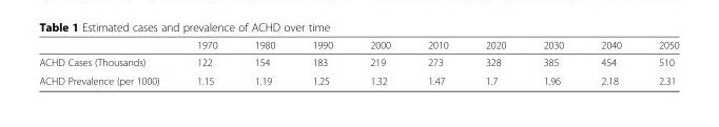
<table><thead><tr><td></td><td>1970</td><td>1980</td><td>1990</td><td>2000</td><td>2010</td><td>2020</td><td>2030</td><td>2040</td><td>2050</td></tr></thead><tbody><tr><td>ACHD Cases (Thousands)</td><td>122</td><td>154</td><td>183</td><td>219</td><td>273</td><td>328</td><td>385</td><td>454</td><td>510</td></tr><tr><td>ACHD Prevalence (per 1000)</td><td>1.15</td><td>1.19</td><td>1.25</td><td>1.32</td><td>1.47</td><td>1.7</td><td>1.96</td><td>2.18</td><td>2.31</td></tr></tbody></table>